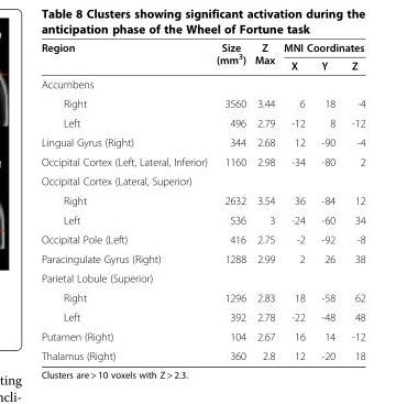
<table><thead><tr><td rowspan="2">Region</td><td rowspan="2">Size (mm<sup>3</sup>)</td><td rowspan="2">Z Max</td><td colspan="3">MNI Coordinates</td></tr><tr><td>X</td><td>Y</td><td>Z</td></tr></thead><tbody><tr><td colspan="6">Accumbens</td></tr><tr><td>Right</td><td>3560</td><td>3.44</td><td>6</td><td>18</td><td>-4</td></tr><tr><td>Left</td><td>496</td><td>2.79</td><td>-12</td><td>8</td><td>-12</td></tr><tr><td>Lingual Gyrus (Right)</td><td>344</td><td>2.68</td><td>12</td><td>-90</td><td>-4</td></tr><tr><td>Occipital Cortex (Left, Lateral, Inferior)</td><td>1160</td><td>2.98</td><td>-34</td><td>-80</td><td>2</td></tr><tr><td colspan="6">Occipital Cortex (Lateral, Superior)</td></tr><tr><td>Right</td><td>2632</td><td>3.54</td><td>36</td><td>-84</td><td>12</td></tr><tr><td>Left</td><td>536</td><td>3</td><td>-24</td><td>-60</td><td>34</td></tr><tr><td>Occipital Pole (Left)</td><td>416</td><td>2.75</td><td>-2</td><td>-92</td><td>-8</td></tr><tr><td>Paracingulate Gyrus (Right)</td><td>1288</td><td>2.99</td><td>2</td><td>26</td><td>38</td></tr><tr><td colspan="6">Parietal Lobule (Superior)</td></tr><tr><td>Right</td><td>1296</td><td>2.83</td><td>18</td><td>-58</td><td>62</td></tr><tr><td>Left</td><td>392</td><td>2.78</td><td>-22</td><td>-48</td><td>48</td></tr><tr><td>Putamen (Right)</td><td>104</td><td>2.67</td><td>16</td><td>14</td><td>-12</td></tr><tr><td>Thalamus (Right)</td><td>360</td><td>2.8</td><td>12</td><td>-20</td><td>18</td></tr></tbody></table>